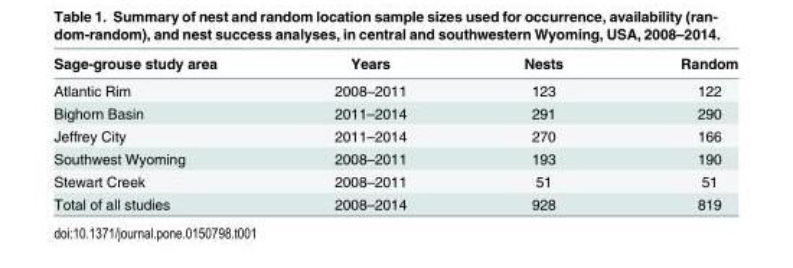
<table><thead><tr><td>Sage-grouse study area</td><td>Years</td><td>Nests</td><td>Random</td></tr></thead><tbody><tr><td>Atlantic Rim</td><td>2008–2011</td><td>123</td><td>122</td></tr><tr><td>Bighorn Basin</td><td>2011–2014</td><td>291</td><td>290</td></tr><tr><td>Jeffrey City</td><td>2011–2014</td><td>270</td><td>166</td></tr><tr><td>Southwest Wyoming</td><td>2008–2011</td><td>193</td><td>190</td></tr><tr><td>Stewart Creek</td><td>2008–2011</td><td>51</td><td>51</td></tr><tr><td>Total of all studies</td><td>2008–2014</td><td>928</td><td>819</td></tr></tbody></table>